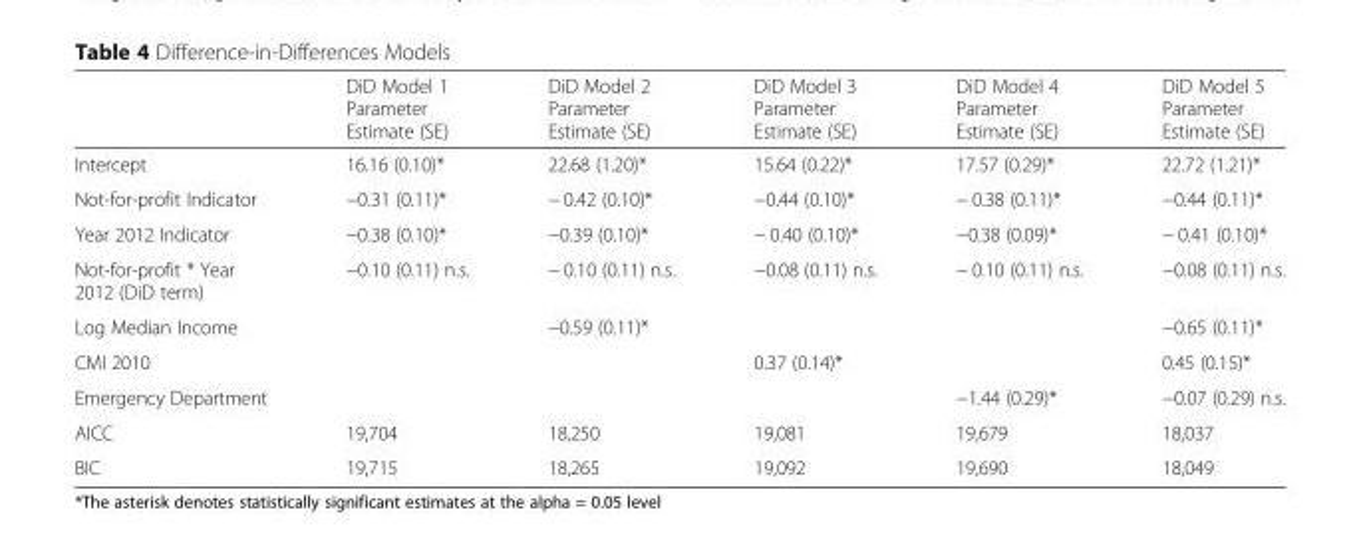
<table><thead><tr><td></td><td>DiD Model 1 Parameter Estimate (SE)</td><td>DiD Model 2 Parameter Estimate (SE)</td><td>DiD Model 3 Parameter Estimate (SE)</td><td>DiD Model 4 Parameter Estimate (SE)</td><td>DiD Model 5 Parameter Estimate (SE)</td></tr></thead><tbody><tr><td>Intercept</td><td>16.16 (0.10)*</td><td>22.68 (1.20)*</td><td>15.64 (0.22)*</td><td>17.57 (0.29)*</td><td>22.72 (1.21)*</td></tr><tr><td>Not-for-profit Indicator</td><td>−0.31 (0.11)*</td><td>− 0.42 (0.10)*</td><td>−0.44 (0.10)*</td><td>− 0.38 (0.11)*</td><td>−0.44 (0.11)*</td></tr><tr><td>Year 2012 Indicator</td><td>−0.38 (0.10)*</td><td>−0.39 (0.10)*</td><td>− 0.40 (0.10)*</td><td>−0.38 (0.09)*</td><td>− 0.41 (0.10)*</td></tr><tr><td>Not-for-profit * Year 2012 (DiD term)</td><td>−0.10 (0.11) n.s.</td><td>− 0.10 (0.11) n.s.</td><td>−0.08 (0.11) n.s.</td><td>− 0.10 (0.11) n.s.</td><td>−0.08 (0.11) n.s.</td></tr><tr><td>Log Median Income</td><td></td><td>−0.59 (0.11)*</td><td></td><td></td><td>−0.65 (0.11)*</td></tr><tr><td>CMI 2010</td><td></td><td></td><td>0.37 (0.14)*</td><td></td><td>0.45 (0.15)*</td></tr><tr><td>Emergency Department</td><td></td><td></td><td></td><td>−1.44 (0.29)*</td><td>−0.07 (0.29) n.s.</td></tr><tr><td>AICC</td><td>19,704</td><td>18,250</td><td>19,081</td><td>19,679</td><td>18,037</td></tr><tr><td>BIC</td><td>19,715</td><td>18,265</td><td>19,092</td><td>19,690</td><td>18,049</td></tr></tbody></table>